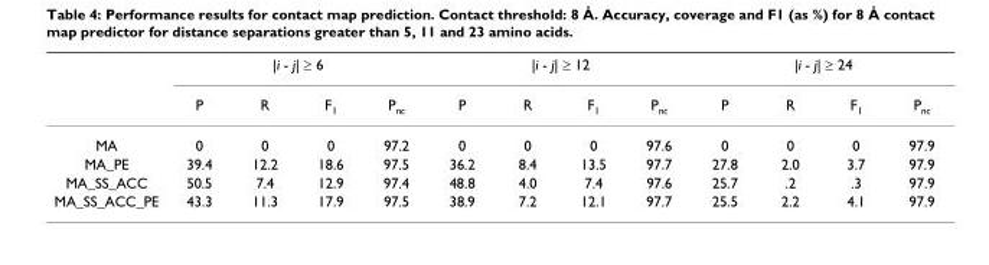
<table><thead><tr><td rowspan="2"></td><td colspan="4">|i - j| ≥ 6</td><td colspan="4">|i - j| ≥ 12</td><td colspan="4">|i - j| ≥ 24</td></tr><tr><td>P</td><td>R</td><td>F1</td><td>Pnc</td><td>P</td><td>R</td><td>F1</td><td>Pnc</td><td>P</td><td>R</td><td>F1</td><td>Pnc</td></tr></thead><tbody><tr><td>MA</td><td>0</td><td>0</td><td>0</td><td>97.2</td><td>0</td><td>0</td><td>0</td><td>97.6</td><td>0</td><td>0</td><td>0</td><td>97.9</td></tr><tr><td>MA_PE</td><td>39.4</td><td>12.2</td><td>18.6</td><td>97.5</td><td>36.2</td><td>8.4</td><td>13.5</td><td>97.7</td><td>27.8</td><td>2.0</td><td>3.7</td><td>97.9</td></tr><tr><td>MA_SS_ACC</td><td>50.5</td><td>7.4</td><td>12.9</td><td>97.4</td><td>48.8</td><td>4.0</td><td>7.4</td><td>97.6</td><td>25.7</td><td>.2</td><td>.3</td><td>97.9</td></tr><tr><td>MA_SS_ACC_PE</td><td>43.3</td><td>11.3</td><td>17.9</td><td>97.5</td><td>38.9</td><td>7.2</td><td>12.1</td><td>97.7</td><td>25.5</td><td>2.2</td><td>4.1</td><td>97.9</td></tr></tbody></table>